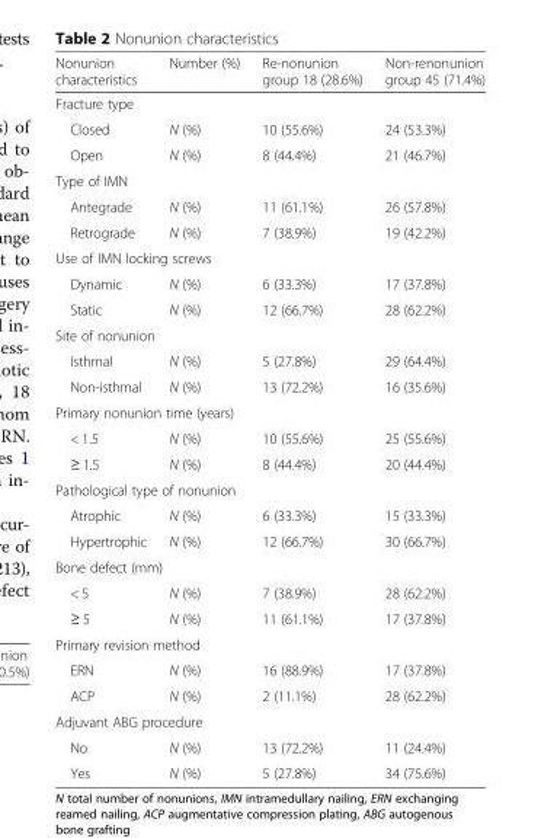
<table><thead><tr><td>Nonunion characteristics</td><td>Number (%)</td><td>Re-nonunion group 18 (28.6%)</td><td>Non-renonunion group 45 (71.4%)</td></tr></thead><tbody><tr><td colspan="4">Fracture type</td></tr><tr><td>Closed</td><td>N (%)</td><td>10 (55.6%)</td><td>24 (53.3%)</td></tr><tr><td>Open</td><td>N (%)</td><td>8 (44.4%)</td><td>21 (46.7%)</td></tr><tr><td colspan="4">Type of IMN</td></tr><tr><td>Antegrade</td><td>N (%)</td><td>11 (61.1%)</td><td>26 (57.8%)</td></tr><tr><td>Retrograde</td><td>N (%)</td><td>7 (38.9%)</td><td>19 (42.2%)</td></tr><tr><td colspan="4">Use of IMN locking screws</td></tr><tr><td>Dynamic</td><td>N (%)</td><td>6 (33.3%)</td><td>17 (37.8%)</td></tr><tr><td>Static</td><td>N (%)</td><td>12 (66.7%)</td><td>28 (62.2%)</td></tr><tr><td colspan="4">Site of nonunion</td></tr><tr><td>Isthmal</td><td>N (%)</td><td>5 (27.8%)</td><td>29 (64.4%)</td></tr><tr><td>Non-isthmal</td><td>N (%)</td><td>13 (72.2%)</td><td>16 (35.6%)</td></tr><tr><td colspan="4">Primary nonunion time (years)</td></tr><tr><td>&lt; 1.5</td><td>N (%)</td><td>10 (55.6%)</td><td>25 (55.6%)</td></tr><tr><td>≥ 1.5</td><td>N (%)</td><td>8 (44.4%)</td><td>20 (44.4%)</td></tr><tr><td colspan="4">Pathological type of nonunion</td></tr><tr><td>Atrophic</td><td>N (%)</td><td>6 (33.3%)</td><td>15 (33.3%)</td></tr><tr><td>Hypertrophic</td><td>N (%)</td><td>12 (66.7%)</td><td>30 (66.7%)</td></tr><tr><td colspan="4">Bone defect (mm)</td></tr><tr><td>&lt; 5</td><td>N (%)</td><td>7 (38.9%)</td><td>28 (62.2%)</td></tr><tr><td>≥ 5</td><td>N (%)</td><td>11 (61.1%)</td><td>17 (37.8%)</td></tr><tr><td colspan="4">Primary revision method</td></tr><tr><td>ERN</td><td>N (%)</td><td>16 (88.9%)</td><td>17 (37.8%)</td></tr><tr><td>ACP</td><td>N (%)</td><td>2 (11.1%)</td><td>28 (62.2%)</td></tr><tr><td colspan="4">Adjuvant ABG procedure</td></tr><tr><td>No</td><td>N (%)</td><td>13 (72.2%)</td><td>11 (24.4%)</td></tr><tr><td>Yes</td><td>N (%)</td><td>5 (27.8%)</td><td>34 (75.6%)</td></tr></tbody></table>